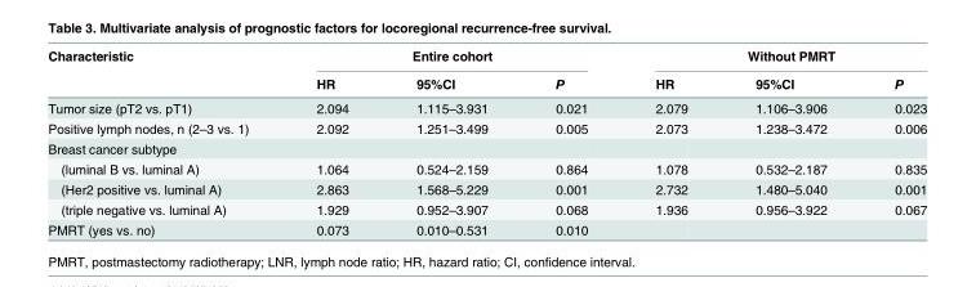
<table><thead><tr><td rowspan="2">Characteristic</td><td colspan="3">Entire cohort</td><td colspan="3">Without PMRT</td></tr><tr><td>HR</td><td>95%CI</td><td>P</td><td>HR</td><td>95%CI</td><td>P</td></tr></thead><tbody><tr><td>Tumor size (pT2 vs. pT1)</td><td>2.094</td><td>1.115–3.931</td><td>0.021</td><td>2.079</td><td>1.106–3.906</td><td>0.023</td></tr><tr><td>Positive lymph nodes, n (2–3 vs. 1)</td><td>2.092</td><td>1.251–3.499</td><td>0.005</td><td>2.073</td><td>1.238–3.472</td><td>0.006</td></tr><tr><td colspan="7">Breast cancer subtype</td></tr><tr><td>(luminal B vs. luminal A)</td><td>1.064</td><td>0.524–2.159</td><td>0.864</td><td>1.078</td><td>0.532–2.187</td><td>0.835</td></tr><tr><td>(Her2 positive vs. luminal A)</td><td>2.863</td><td>1.568–5.229</td><td>0.001</td><td>2.732</td><td>1.480–5.040</td><td>0.001</td></tr><tr><td>(triple negative vs. luminal A)</td><td>1.929</td><td>0.952–3.907</td><td>0.068</td><td>1.936</td><td>0.956–3.922</td><td>0.067</td></tr><tr><td>PMRT (yes vs. no)</td><td>0.073</td><td>0.010–0.531</td><td>0.010</td><td></td><td></td><td></td></tr></tbody></table>